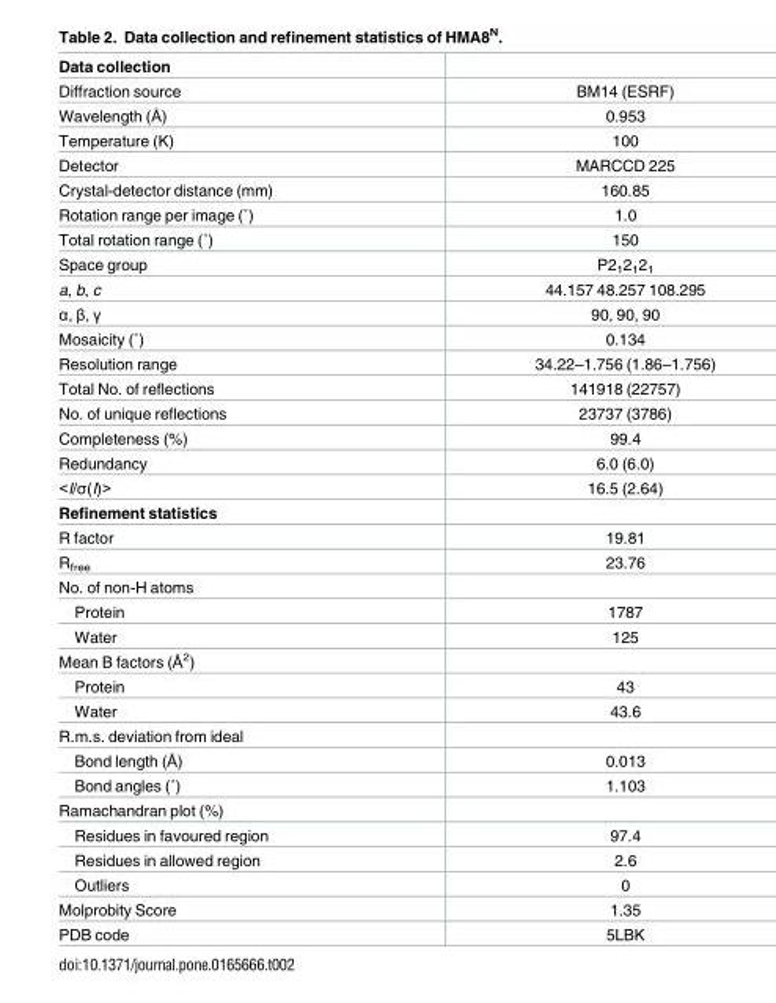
<table><tbody><tr><td colspan="2">Data collection</td></tr><tr><td>Diffraction source</td><td>BM14 (ESRF)</td></tr><tr><td>Wavelength (Å)</td><td>0.953</td></tr><tr><td>Temperature (K)</td><td>100</td></tr><tr><td>Detector</td><td>MARCCD 225</td></tr><tr><td>Crystal-detector distance (mm)</td><td>160.85</td></tr><tr><td>Rotation range per image (˚)</td><td>1.0</td></tr><tr><td>Total rotation range (˚)</td><td>150</td></tr><tr><td>Space group</td><td>P2<sub>1</sub>2<sub>1</sub>2<sub>1</sub></td></tr><tr><td>a, b, c</td><td>44.157 48.257 108.295</td></tr><tr><td>α, β, γ</td><td>90, 90, 90</td></tr><tr><td>Mosaicity (˚)</td><td>0.134</td></tr><tr><td>Resolution range</td><td>34.22–1.756 (1.86–1.756)</td></tr><tr><td>Total No. of reflections</td><td>141918 (22757)</td></tr><tr><td>No. of unique reflections</td><td>23737 (3786)</td></tr><tr><td>Completeness (%)</td><td>99.4</td></tr><tr><td>Redundancy</td><td>6.0 (6.0)</td></tr><tr><td>&lt;I/σ(I)&gt;</td><td>16.5 (2.64)</td></tr><tr><td colspan="2">Refinement statistics</td></tr><tr><td>R factor</td><td>19.81</td></tr><tr><td>R<sub>free</sub></td><td>23.76</td></tr><tr><td colspan="2">No. of non-H atoms</td></tr><tr><td>Protein</td><td>1787</td></tr><tr><td>Water</td><td>125</td></tr><tr><td colspan="2">Mean B factors (Å<sup>2</sup>)</td></tr><tr><td>Protein</td><td>43</td></tr><tr><td>Water</td><td>43.6</td></tr><tr><td colspan="2">R.m.s. deviation from ideal</td></tr><tr><td>Bond length (Å)</td><td>0.013</td></tr><tr><td>Bond angles (˚)</td><td>1.103</td></tr><tr><td colspan="2">Ramachandran plot (%)</td></tr><tr><td>Residues in favoured region</td><td>97.4</td></tr><tr><td>Residues in allowed region</td><td>2.6</td></tr><tr><td>Outliers</td><td>0</td></tr><tr><td>Molprobity Score</td><td>1.35</td></tr><tr><td>PDB code</td><td>5LBK</td></tr></tbody></table>